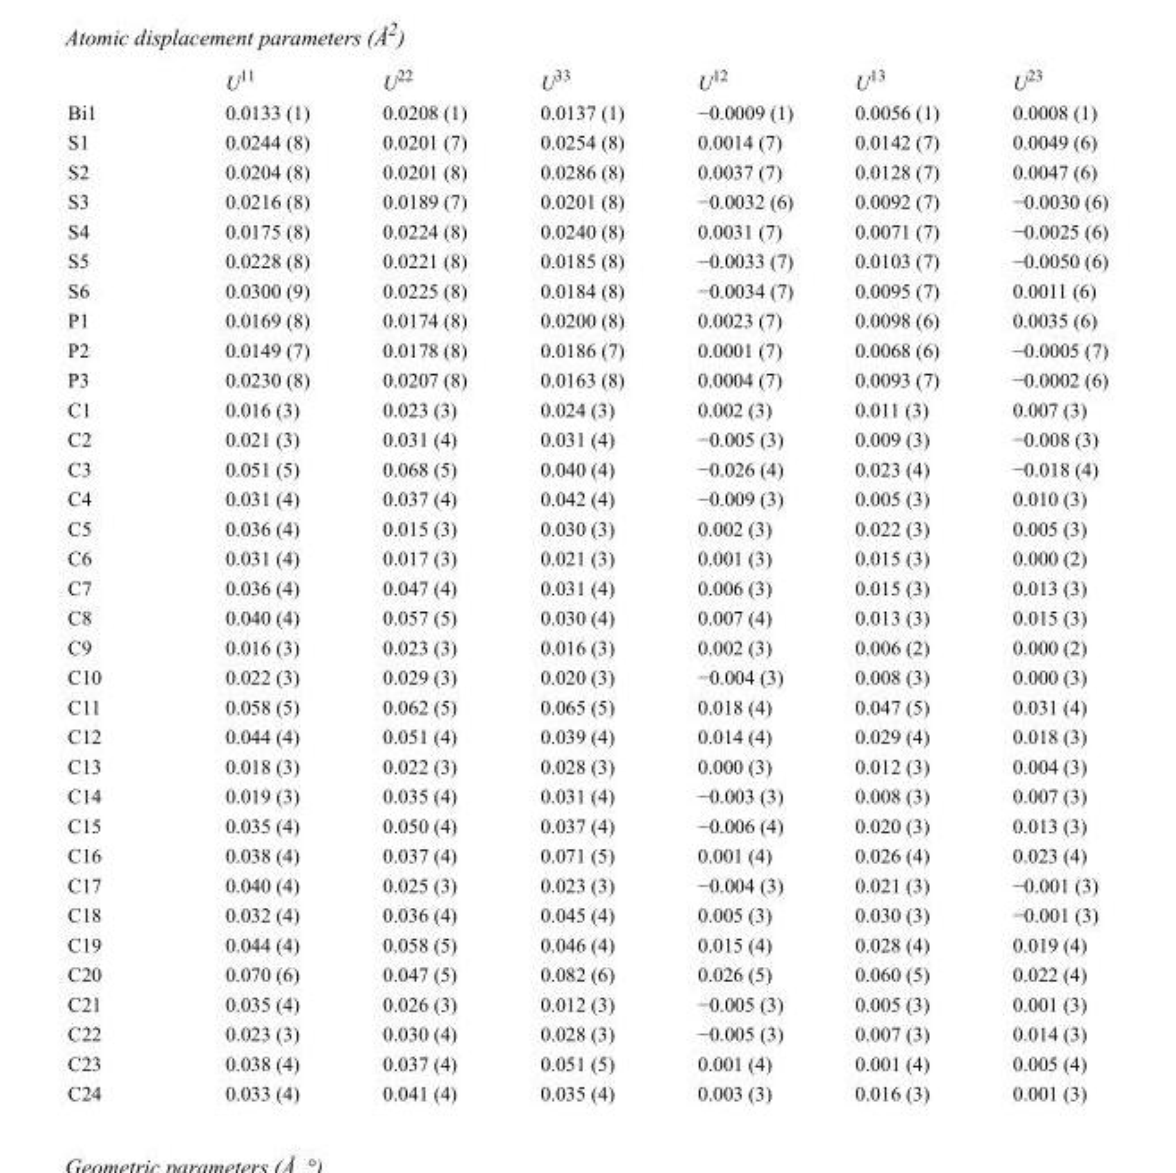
<table><thead><tr><td></td><td>U<sup>11</sup></td><td>U<sup>22</sup></td><td>U<sup>33</sup></td><td>U<sup>12</sup></td><td>U<sup>13</sup></td><td>U<sup>23</sup></td></tr></thead><tbody><tr><td>Bi1</td><td>0.0133 (1)</td><td>0.0208 (1)</td><td>0.0137 (1)</td><td>−0.0009 (1)</td><td>0.0056 (1)</td><td>0.0008 (1)</td></tr><tr><td>S1</td><td>0.0244 (8)</td><td>0.0201 (7)</td><td>0.0254 (8)</td><td>0.0014 (7)</td><td>0.0142 (7)</td><td>0.0049 (6)</td></tr><tr><td>S2</td><td>0.0204 (8)</td><td>0.0201 (8)</td><td>0.0286 (8)</td><td>0.0037 (7)</td><td>0.0128 (7)</td><td>0.0047 (6)</td></tr><tr><td>S3</td><td>0.0216 (8)</td><td>0.0189 (7)</td><td>0.0201 (8)</td><td>−0.0032 (6)</td><td>0.0092 (7)</td><td>−0.0030 (6)</td></tr><tr><td>S4</td><td>0.0175 (8)</td><td>0.0224 (8)</td><td>0.0240 (8)</td><td>0.0031 (7)</td><td>0.0071 (7)</td><td>−0.0025 (6)</td></tr><tr><td>S5</td><td>0.0228 (8)</td><td>0.0221 (8)</td><td>0.0185 (8)</td><td>−0.0033 (7)</td><td>0.0103 (7)</td><td>−0.0050 (6)</td></tr><tr><td>S6</td><td>0.0300 (9)</td><td>0.0225 (8)</td><td>0.0184 (8)</td><td>−0.0034 (7)</td><td>0.0095 (7)</td><td>0.0011 (6)</td></tr><tr><td>P1</td><td>0.0169 (8)</td><td>0.0174 (8)</td><td>0.0200 (8)</td><td>0.0023 (7)</td><td>0.0098 (6)</td><td>0.0035 (6)</td></tr><tr><td>P2</td><td>0.0149 (7)</td><td>0.0178 (8)</td><td>0.0186 (7)</td><td>0.0001 (7)</td><td>0.0068 (6)</td><td>−0.0005 (7)</td></tr><tr><td>P3</td><td>0.0230 (8)</td><td>0.0207 (8)</td><td>0.0163 (8)</td><td>0.0004 (7)</td><td>0.0093 (7)</td><td>−0.0002 (6)</td></tr><tr><td>C1</td><td>0.016 (3)</td><td>0.023 (3)</td><td>0.024 (3)</td><td>0.002 (3)</td><td>0.011 (3)</td><td>0.007 (3)</td></tr><tr><td>C2</td><td>0.021 (3)</td><td>0.031 (4)</td><td>0.031 (4)</td><td>−0.005 (3)</td><td>0.009 (3)</td><td>−0.008 (3)</td></tr><tr><td>C3</td><td>0.051 (5)</td><td>0.068 (5)</td><td>0.040 (4)</td><td>−0.026 (4)</td><td>0.023 (4)</td><td>−0.018 (4)</td></tr><tr><td>C4</td><td>0.031 (4)</td><td>0.037 (4)</td><td>0.042 (4)</td><td>−0.009 (3)</td><td>0.005 (3)</td><td>0.010 (3)</td></tr><tr><td>C5</td><td>0.036 (4)</td><td>0.015 (3)</td><td>0.030 (3)</td><td>0.002 (3)</td><td>0.022 (3)</td><td>0.005 (3)</td></tr><tr><td>C6</td><td>0.031 (4)</td><td>0.017 (3)</td><td>0.021 (3)</td><td>0.001 (3)</td><td>0.015 (3)</td><td>0.000 (2)</td></tr><tr><td>C7</td><td>0.036 (4)</td><td>0.047 (4)</td><td>0.031 (4)</td><td>0.006 (3)</td><td>0.015 (3)</td><td>0.013 (3)</td></tr><tr><td>C8</td><td>0.040 (4)</td><td>0.057 (5)</td><td>0.030 (4)</td><td>0.007 (4)</td><td>0.013 (3)</td><td>0.015 (3)</td></tr><tr><td>C9</td><td>0.016 (3)</td><td>0.023 (3)</td><td>0.016 (3)</td><td>0.002 (3)</td><td>0.006 (2)</td><td>0.000 (2)</td></tr><tr><td>C10</td><td>0.022 (3)</td><td>0.029 (3)</td><td>0.020 (3)</td><td>−0.004 (3)</td><td>0.008 (3)</td><td>0.000 (3)</td></tr><tr><td>C11</td><td>0.058 (5)</td><td>0.062 (5)</td><td>0.065 (5)</td><td>0.018 (4)</td><td>0.047 (5)</td><td>0.031 (4)</td></tr><tr><td>C12</td><td>0.044 (4)</td><td>0.051 (4)</td><td>0.039 (4)</td><td>0.014 (4)</td><td>0.029 (4)</td><td>0.018 (3)</td></tr><tr><td>C13</td><td>0.018 (3)</td><td>0.022 (3)</td><td>0.028 (3)</td><td>0.000 (3)</td><td>0.012 (3)</td><td>0.004 (3)</td></tr><tr><td>C14</td><td>0.019 (3)</td><td>0.035 (4)</td><td>0.031 (4)</td><td>−0.003 (3)</td><td>0.008 (3)</td><td>0.007 (3)</td></tr><tr><td>C15</td><td>0.035 (4)</td><td>0.050 (4)</td><td>0.037 (4)</td><td>−0.006 (4)</td><td>0.020 (3)</td><td>0.013 (3)</td></tr><tr><td>C16</td><td>0.038 (4)</td><td>0.037 (4)</td><td>0.071 (5)</td><td>0.001 (4)</td><td>0.026 (4)</td><td>0.023 (4)</td></tr><tr><td>C17</td><td>0.040 (4)</td><td>0.025 (3)</td><td>0.023 (3)</td><td>−0.004 (3)</td><td>0.021 (3)</td><td>−0.001 (3)</td></tr><tr><td>C18</td><td>0.032 (4)</td><td>0.036 (4)</td><td>0.045 (4)</td><td>0.005 (3)</td><td>0.030 (3)</td><td>−0.001 (3)</td></tr><tr><td>C19</td><td>0.044 (4)</td><td>0.058 (5)</td><td>0.046 (4)</td><td>0.015 (4)</td><td>0.028 (4)</td><td>0.019 (4)</td></tr><tr><td>C20</td><td>0.070 (6)</td><td>0.047 (5)</td><td>0.082 (6)</td><td>0.026 (5)</td><td>0.060 (5)</td><td>0.022 (4)</td></tr><tr><td>C21</td><td>0.035 (4)</td><td>0.026 (3)</td><td>0.012 (3)</td><td>−0.005 (3)</td><td>0.005 (3)</td><td>0.001 (3)</td></tr><tr><td>C22</td><td>0.023 (3)</td><td>0.030 (4)</td><td>0.028 (3)</td><td>−0.005 (3)</td><td>0.007 (3)</td><td>0.014 (3)</td></tr><tr><td>C23</td><td>0.038 (4)</td><td>0.037 (4)</td><td>0.051 (5)</td><td>0.001 (4)</td><td>0.001 (4)</td><td>0.005 (4)</td></tr><tr><td>C24</td><td>0.033 (4)</td><td>0.041 (4)</td><td>0.035 (4)</td><td>0.003 (3)</td><td>0.016 (3)</td><td>0.001 (3)</td></tr></tbody></table>